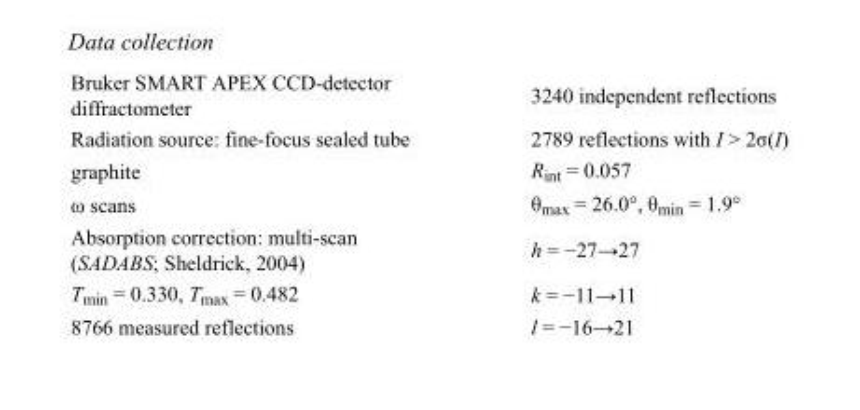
<table><tbody><tr><td>Bruker SMART APEX CCD-detector diffractometer</td><td>3240 independent reflections</td></tr><tr><td>Radiation source: fine-focus sealed tube</td><td>2789 reflections with I &gt; 2σ(I)</td></tr><tr><td>graphite</td><td>R<sub>int</sub> = 0.057</td></tr><tr><td>ω scans</td><td>θ<sub>max</sub> = 26.0°, θ<sub>min</sub> = 1.9°</td></tr><tr><td>Absorption correction: multi-scan (SADABS; Sheldrick, 2004)</td><td>h = −27→27</td></tr><tr><td>T<sub>min</sub> = 0.330, T<sub>max</sub> = 0.482</td><td>k = −11→11</td></tr><tr><td>8766 measured reflections</td><td>l = −16→21</td></tr></tbody></table>